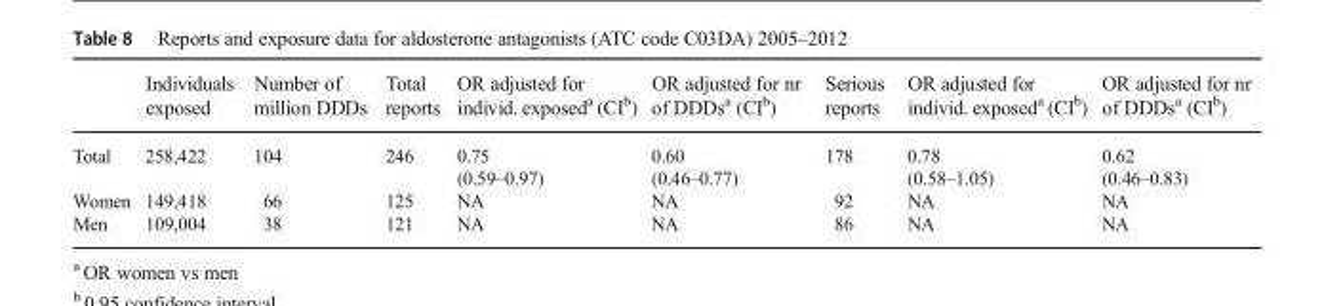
<table><thead><tr><td></td><td>Individuals exposed</td><td>Number of million DDDs</td><td>Total reports</td><td>OR adjusted for individ. exposed<sup>a</sup> (CI<sup>b</sup>)</td><td>OR adjusted for nr of DDDs<sup>a</sup> (CI<sup>b</sup>)</td><td>Serious reports</td><td>OR adjusted for individ. exposed<sup>a</sup> (CI<sup>b</sup>)</td><td>OR adjusted for nr of DDDs<sup>a</sup> (CI<sup>b</sup>)</td></tr></thead><tbody><tr><td>Total</td><td>258,422</td><td>104</td><td>246</td><td>0.75 (0.59–0.97)</td><td>0.60 (0.46–0.77)</td><td>178</td><td>0.78 (0.58–1.05)</td><td>0.62 (0.46–0.83)</td></tr><tr><td>Women</td><td>149,418</td><td>66</td><td>125</td><td>NA</td><td>NA</td><td>92</td><td>NA</td><td>NA</td></tr><tr><td>Men</td><td>109,004</td><td>38</td><td>121</td><td>NA</td><td>NA</td><td>86</td><td>NA</td><td>NA</td></tr></tbody></table>